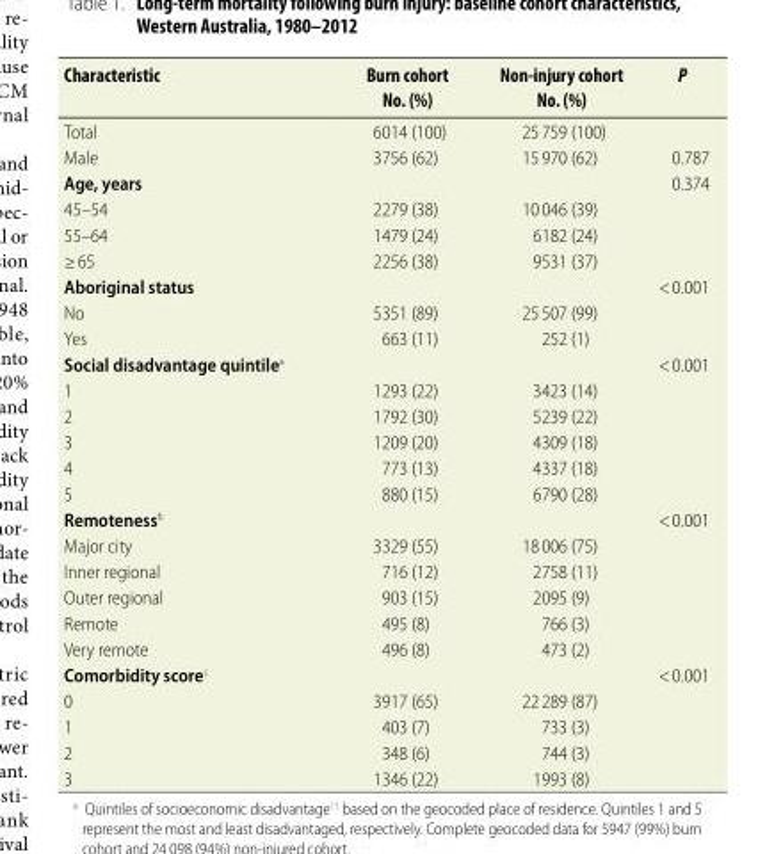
<table><thead><tr><td>Characteristic</td><td>Burn cohort No. (%)</td><td>Non-injury cohort No. (%)</td><td>P</td></tr></thead><tbody><tr><td>Total</td><td>6014 (100)</td><td>25 759 (100)</td><td></td></tr><tr><td>Male</td><td>3756 (62)</td><td>15 970 (62)</td><td>0.787</td></tr><tr><td>Age, years</td><td></td><td></td><td>0.374</td></tr><tr><td>45–54</td><td>2279 (38)</td><td>10 046 (39)</td><td></td></tr><tr><td>55–64</td><td>1479 (24)</td><td>6182 (24)</td><td></td></tr><tr><td>≥ 65</td><td>2256 (38)</td><td>9531 (37)</td><td></td></tr><tr><td>Aboriginal status</td><td></td><td></td><td>&lt; 0.001</td></tr><tr><td>No</td><td>5351 (89)</td><td>25 507 (99)</td><td></td></tr><tr><td>Yes</td><td>663 (11)</td><td>252 (1)</td><td></td></tr><tr><td>Social disadvantage quintile<sup>a</sup></td><td></td><td></td><td>&lt; 0.001</td></tr><tr><td>1</td><td>1293 (22)</td><td>3423 (14)</td><td></td></tr><tr><td>2</td><td>1792 (30)</td><td>5239 (22)</td><td></td></tr><tr><td>3</td><td>1209 (20)</td><td>4309 (18)</td><td></td></tr><tr><td>4</td><td>773 (13)</td><td>4337 (18)</td><td></td></tr><tr><td>5</td><td>880 (15)</td><td>6790 (28)</td><td></td></tr><tr><td>Remoteness<sup>b</sup></td><td></td><td></td><td>&lt; 0.001</td></tr><tr><td>Major city</td><td>3329 (55)</td><td>18 006 (75)</td><td></td></tr><tr><td>Inner regional</td><td>716 (12)</td><td>2758 (11)</td><td></td></tr><tr><td>Outer regional</td><td>903 (15)</td><td>2095 (9)</td><td></td></tr><tr><td>Remote</td><td>495 (8)</td><td>766 (3)</td><td></td></tr><tr><td>Very remote</td><td>496 (8)</td><td>473 (2)</td><td></td></tr><tr><td>Comorbidity score<sup>c</sup></td><td></td><td></td><td>&lt; 0.001</td></tr><tr><td>0</td><td>3917 (65)</td><td>22 289 (87)</td><td></td></tr><tr><td>1</td><td>403 (7)</td><td>733 (3)</td><td></td></tr><tr><td>2</td><td>348 (6)</td><td>744 (3)</td><td></td></tr><tr><td>3</td><td>1346 (22)</td><td>1993 (8)</td><td></td></tr></tbody></table>